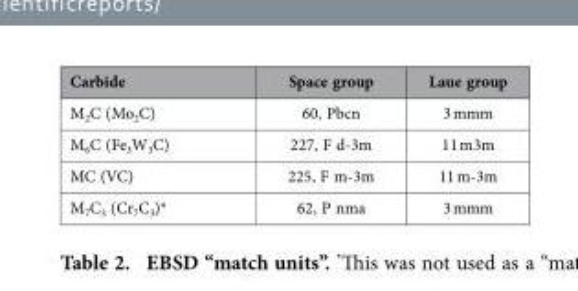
<table><thead><tr><td>Carbide</td><td>Space group</td><td>Laue group</td></tr></thead><tbody><tr><td>M<sub>2</sub>C (Mo<sub>2</sub>C)</td><td>60, Pbcn</td><td>3 mmm</td></tr><tr><td>M<sub>6</sub>C (Fe<sub>3</sub>W<sub>3</sub>C)</td><td>227, F d-3m</td><td>11 m3m</td></tr><tr><td>MC (VC)</td><td>225, F m-3m</td><td>11 m-3m</td></tr><tr><td>M<sub>7</sub>C<sub>3</sub> (Cr<sub>7</sub>C<sub>3</sub>)*</td><td>62, P nma</td><td>3 mmm</td></tr></tbody></table>